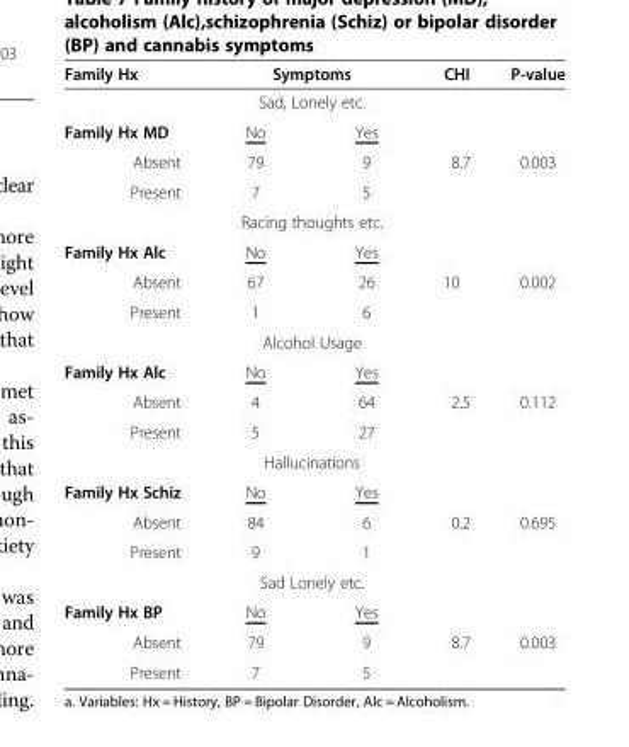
<table><thead><tr><td rowspan="3">Family Hx Family Hx MD</td><td rowspan="2" colspan="2">Symptoms Sad, Lonely etc.</td><td rowspan="3">CHI</td><td rowspan="3">P-value</td></tr><tr></tr><tr><td>No</td><td>Yes</td></tr></thead><tbody><tr><td>Absent</td><td>79</td><td>9</td><td>8.7</td><td>0.003</td></tr><tr><td rowspan="2">Present</td><td>7</td><td>5</td><td></td><td></td></tr><tr><td colspan="2">Racing thoughts etc.</td><td></td><td></td></tr><tr><td>Family Hx Alc</td><td>No</td><td>Yes</td><td></td><td></td></tr><tr><td>Absent</td><td>67</td><td>26</td><td>10</td><td>0.002</td></tr><tr><td rowspan="2">Present</td><td>1</td><td>6</td><td></td><td></td></tr><tr><td colspan="2">Alcohol Usage</td><td></td><td></td></tr><tr><td>Family Hx Alc</td><td>No</td><td>Yes</td><td></td><td></td></tr><tr><td>Absent</td><td>4</td><td>64</td><td>2.5</td><td>0.112</td></tr><tr><td rowspan="2">Present</td><td>5</td><td>27</td><td></td><td></td></tr><tr><td colspan="2">Hallucinations</td><td></td><td></td></tr><tr><td>Family Hx Schiz</td><td>No</td><td>Yes</td><td></td><td></td></tr><tr><td>Absent</td><td>84</td><td>6</td><td>0.2</td><td>0.695</td></tr><tr><td rowspan="2">Present</td><td>9</td><td>1</td><td></td><td></td></tr><tr><td colspan="2">Sad Lonely etc.</td><td></td><td></td></tr><tr><td>Family Hx BP</td><td>No</td><td>Yes</td><td></td><td></td></tr><tr><td>Absent</td><td>79</td><td>9</td><td>8.7</td><td>0.003</td></tr><tr><td>Present</td><td>7</td><td>5</td><td></td><td></td></tr></tbody></table>